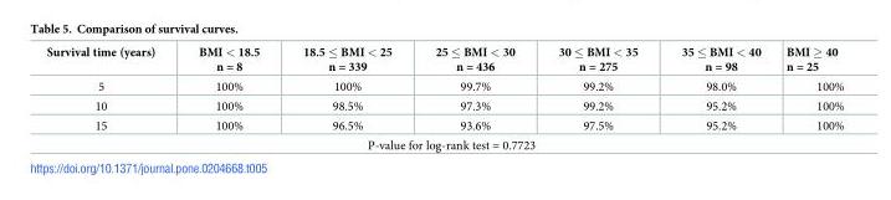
<table><thead><tr><td>Survival time (years)</td><td>BMI &lt; 18.5 n = 8</td><td>18.5 ≤ BMI &lt; 25 n = 339</td><td>25 ≤ BMI &lt; 30 n = 436</td><td>30 ≤ BMI &lt; 35 n = 275</td><td>35 ≤ BMI &lt; 40 n = 98</td><td>BMI ≥ 40 n = 25</td></tr></thead><tbody><tr><td>5</td><td>100%</td><td>100%</td><td>99.7%</td><td>99.2%</td><td>98.0%</td><td>100%</td></tr><tr><td>10</td><td>100%</td><td>98.5%</td><td>97.3%</td><td>99.2%</td><td>95.2%</td><td>100%</td></tr><tr><td>15</td><td>100%</td><td>96.5%</td><td>93.6%</td><td>97.5%</td><td>95.2%</td><td>100%</td></tr><tr><td colspan="7">P-value for log-rank test = 0.7723</td></tr></tbody></table>